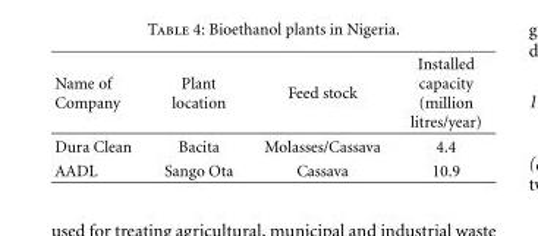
<table><thead><tr><td>Name of Company</td><td>Plant location</td><td>Feed stock</td><td>Installed capacity (million litres/year)</td></tr></thead><tbody><tr><td>Dura Clean</td><td>Bacita</td><td>Molasses/Cassava</td><td>4.4</td></tr><tr><td>AADL</td><td>Sango Ota</td><td>Cassava</td><td>10.9</td></tr></tbody></table>